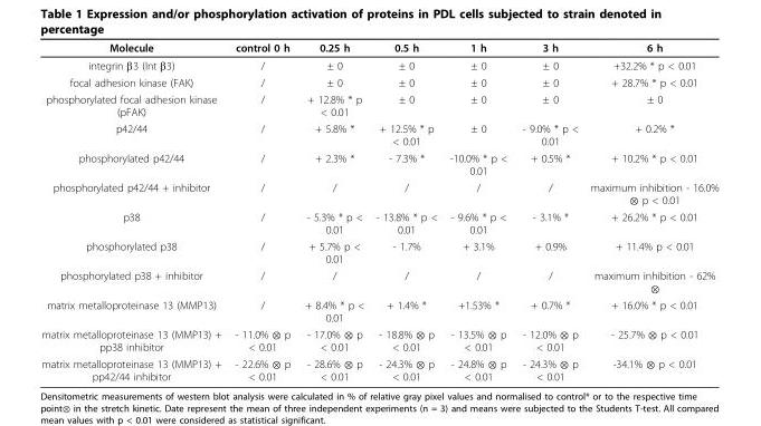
<table><thead><tr><td>Molecule</td><td>control 0 h</td><td>0.25 h</td><td>0.5 h</td><td>1 h</td><td>3 h</td><td>6 h</td></tr></thead><tbody><tr><td>integrin β3 (Int β3)</td><td>/</td><td>± 0</td><td>± 0</td><td>± 0</td><td>± 0</td><td>+32.2% * p &lt; 0.01</td></tr><tr><td>focal adhesion kinase (FAK)</td><td>/</td><td>± 0</td><td>± 0</td><td>± 0</td><td>± 0</td><td>+ 28.7% * p &lt; 0.01</td></tr><tr><td>phosphorylated focal adhesion kinase (pFAK)</td><td>/</td><td>+ 12.8% * p &lt; 0.01</td><td>± 0</td><td>± 0</td><td>± 0</td><td>± 0</td></tr><tr><td>p42/44</td><td>/</td><td>+ 5.8% *</td><td>+ 12.5% * p &lt; 0.01</td><td>± 0</td><td>- 9.0% * p &lt; 0.01</td><td>+ 0.2% *</td></tr><tr><td>phosphorylated p42/44</td><td>/</td><td>+ 2.3% *</td><td>- 7.3% *</td><td>-10.0% * p &lt; 0.01</td><td>+ 0.5% *</td><td>+ 10.2% * p &lt; 0.01</td></tr><tr><td>phosphorylated p42/44 + inhibitor</td><td>/</td><td>/</td><td>/</td><td>/</td><td>/</td><td>maximum inhibition - 16.0% ⊗ p &lt; 0.01</td></tr><tr><td>p38</td><td>/</td><td>- 5.3% * p &lt; 0.01</td><td>- 13.8% * p &lt; 0.01</td><td>- 9.6% * p &lt; 0.01</td><td>- 3.1% *</td><td>+ 26.2% * p &lt; 0.01</td></tr><tr><td>phosphorylated p38</td><td>/</td><td>+ 5.7% p &lt; 0.01</td><td>- 1.7%</td><td>+ 3.1%</td><td>+ 0.9%</td><td>+ 11.4% p &lt; 0.01</td></tr><tr><td>phosphorylated p38 + inhibitor</td><td>/</td><td>/</td><td>/</td><td>/</td><td>/</td><td>maximum inhibition - 62% ⊗</td></tr><tr><td>matrix metalloproteinase 13 (MMP13)</td><td>/</td><td>+ 8.4% * p &lt; 0.01</td><td>+ 1.4% *</td><td>+1.53% *</td><td>+ 0.7% *</td><td>+ 16.0% * p &lt; 0.01</td></tr><tr><td>matrix metalloproteinase 13 (MMP13) + pp38 inhibitor</td><td>- 11.0% ⊗ p &lt; 0.01</td><td>- 17.0% ⊗ p &lt; 0.01</td><td>- 18.8% ⊗ p &lt; 0.01</td><td>- 13.5% ⊗ p &lt; 0.01</td><td>- 12.0% ⊗ p &lt; 0.01</td><td>- 25.7% ⊗ p &lt; 0.01</td></tr><tr><td>matrix metalloproteinase 13 (MMP13) + pp42/44 inhibitor</td><td>- 22.6% ⊗ p &lt; 0.01</td><td>- 28.6% ⊗ p &lt; 0.01</td><td>- 24.3% ⊗ p &lt; 0.01</td><td>- 24.8% ⊗ p &lt; 0.01</td><td>- 24.3% ⊗ p &lt; 0.01</td><td>-34.1% ⊗ p &lt; 0.01</td></tr></tbody></table>